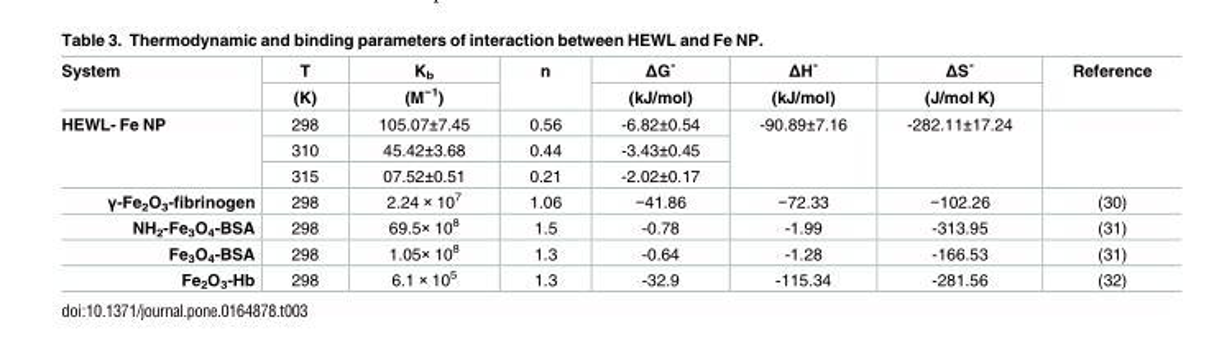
<table><thead><tr><td rowspan="2">System</td><td rowspan="2">T (K)</td><td rowspan="2">K<sub>b</sub> (M<sup>−1</sup>)</td><td rowspan="2">n</td><td rowspan="2">ΔG˚ (kJ/mol)</td><td rowspan="2">ΔH˚ (kJ/mol)</td><td rowspan="2">ΔS˚ (J/mol K)</td><td rowspan="2">Reference</td></tr><tr></tr></thead><tbody><tr><td rowspan="3">HEWL- Fe NP</td><td>298</td><td>105.07±7.45</td><td>0.56</td><td>-6.82±0.54</td><td rowspan="3">-90.89±7.16</td><td rowspan="3">-282.11±17.24</td><td rowspan="3"></td></tr><tr><td>310</td><td>45.42±3.68</td><td>0.44</td><td>-3.43±0.45</td></tr><tr><td>315</td><td>07.52±0.51</td><td>0.21</td><td>-2.02±0.17</td></tr><tr><td>γ-Fe<sub>2</sub>O<sub>3</sub>-fibrinogen</td><td>298</td><td>2.24 × 10<sup>7</sup></td><td>1.06</td><td>−41.86</td><td>−72.33</td><td>−102.26</td><td>(30)</td></tr><tr><td>NH<sub>2</sub>-Fe<sub>3</sub>O<sub>4</sub>-BSA</td><td>298</td><td>69.5× 10<sup>8</sup></td><td>1.5</td><td>-0.78</td><td>-1.99</td><td>-313.95</td><td>(31)</td></tr><tr><td>Fe<sub>3</sub>O<sub>4</sub>-BSA</td><td>298</td><td>1.05× 10<sup>8</sup></td><td>1.3</td><td>-0.64</td><td>-1.28</td><td>-166.53</td><td>(31)</td></tr><tr><td>Fe<sub>2</sub>O<sub>3</sub>-Hb</td><td>298</td><td>6.1 × 10<sup>5</sup></td><td>1.3</td><td>-32.9</td><td>-115.34</td><td>-281.56</td><td>(32)</td></tr></tbody></table>